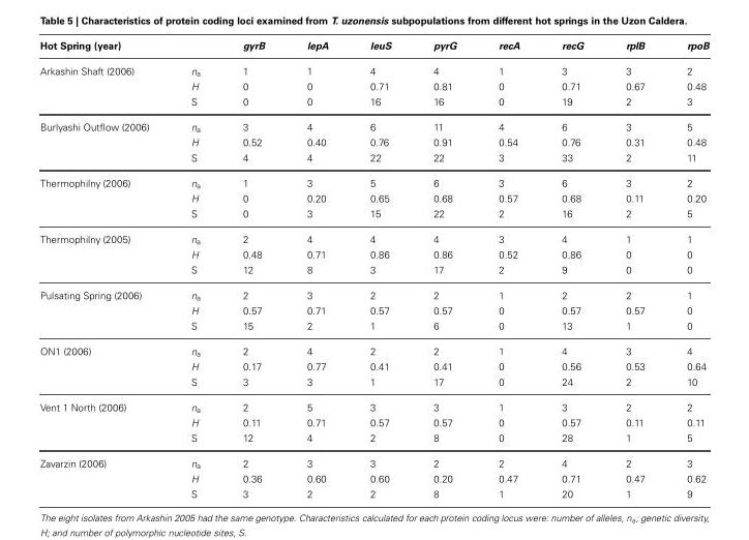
<table><thead><tr><td>Hot Spring (year)</td><td></td><td>gyrB</td><td>lepA</td><td>leuS</td><td>pyrG</td><td>recA</td><td>recG</td><td>rplB</td><td>rpoB</td></tr></thead><tbody><tr><td rowspan="3">Arkashin Shaft (2006)</td><td>n<sub>a</sub></td><td>1</td><td>1</td><td>4</td><td>4</td><td>1</td><td>3</td><td>3</td><td>2</td></tr><tr><td>H</td><td>0</td><td>0</td><td>0.71</td><td>0.81</td><td>0</td><td>0.71</td><td>0.67</td><td>0.48</td></tr><tr><td>S</td><td>0</td><td>0</td><td>16</td><td>16</td><td>0</td><td>19</td><td>2</td><td>3</td></tr><tr><td rowspan="3">Burlyashi Outflow (2006)</td><td>n<sub>a</sub></td><td>3</td><td>4</td><td>6</td><td>11</td><td>4</td><td>6</td><td>3</td><td>5</td></tr><tr><td>H</td><td>0.52</td><td>0.40</td><td>0.76</td><td>0.91</td><td>0.54</td><td>0.76</td><td>0.31</td><td>0.48</td></tr><tr><td>S</td><td>4</td><td>4</td><td>22</td><td>22</td><td>3</td><td>33</td><td>2</td><td>11</td></tr><tr><td rowspan="3">Thermophilny (2006)</td><td>n<sub>a</sub></td><td>1</td><td>3</td><td>5</td><td>6</td><td>3</td><td>6</td><td>3</td><td>2</td></tr><tr><td>H</td><td>0</td><td>0.20</td><td>0.65</td><td>0.68</td><td>0.57</td><td>0.68</td><td>0.11</td><td>0.20</td></tr><tr><td>S</td><td>0</td><td>3</td><td>15</td><td>22</td><td>2</td><td>16</td><td>2</td><td>5</td></tr><tr><td rowspan="3">Thermophilny (2005)</td><td>n<sub>a</sub></td><td>2</td><td>4</td><td>4</td><td>4</td><td>3</td><td>4</td><td>1</td><td>1</td></tr><tr><td>H</td><td>0.48</td><td>0.71</td><td>0.86</td><td>0.86</td><td>0.52</td><td>0.86</td><td>0</td><td>0</td></tr><tr><td>S</td><td>12</td><td>8</td><td>3</td><td>17</td><td>2</td><td>9</td><td>0</td><td>0</td></tr><tr><td rowspan="3">Pulsating Spring (2006)</td><td>n<sub>a</sub></td><td>2</td><td>3</td><td>2</td><td>2</td><td>1</td><td>2</td><td>2</td><td>1</td></tr><tr><td>H</td><td>0.57</td><td>0.71</td><td>0.57</td><td>0.57</td><td>0</td><td>0.57</td><td>0.57</td><td>0</td></tr><tr><td>S</td><td>15</td><td>2</td><td>1</td><td>6</td><td>0</td><td>13</td><td>1</td><td>0</td></tr><tr><td rowspan="3">ON1 (2006)</td><td>n<sub>a</sub></td><td>2</td><td>4</td><td>2</td><td>2</td><td>1</td><td>4</td><td>3</td><td>4</td></tr><tr><td>H</td><td>0.17</td><td>0.77</td><td>0.41</td><td>0.41</td><td>0</td><td>0.56</td><td>0.53</td><td>0.64</td></tr><tr><td>S</td><td>3</td><td>3</td><td>1</td><td>17</td><td>0</td><td>24</td><td>2</td><td>10</td></tr><tr><td rowspan="3">Vent 1 North (2006)</td><td>n<sub>a</sub></td><td>2</td><td>5</td><td>3</td><td>3</td><td>1</td><td>3</td><td>2</td><td>2</td></tr><tr><td>H</td><td>0.11</td><td>0.71</td><td>0.57</td><td>0.57</td><td>0</td><td>0.57</td><td>0.11</td><td>0.11</td></tr><tr><td>S</td><td>12</td><td>4</td><td>2</td><td>8</td><td>0</td><td>28</td><td>1</td><td>5</td></tr><tr><td rowspan="3">Zavarzin (2006)</td><td>n<sub>a</sub></td><td>2</td><td>3</td><td>3</td><td>2</td><td>2</td><td>4</td><td>2</td><td>3</td></tr><tr><td>H</td><td>0.36</td><td>0.60</td><td>0.60</td><td>0.20</td><td>0.47</td><td>0.71</td><td>0.47</td><td>0.62</td></tr><tr><td>S</td><td>3</td><td>2</td><td>2</td><td>8</td><td>1</td><td>20</td><td>1</td><td>9</td></tr></tbody></table>